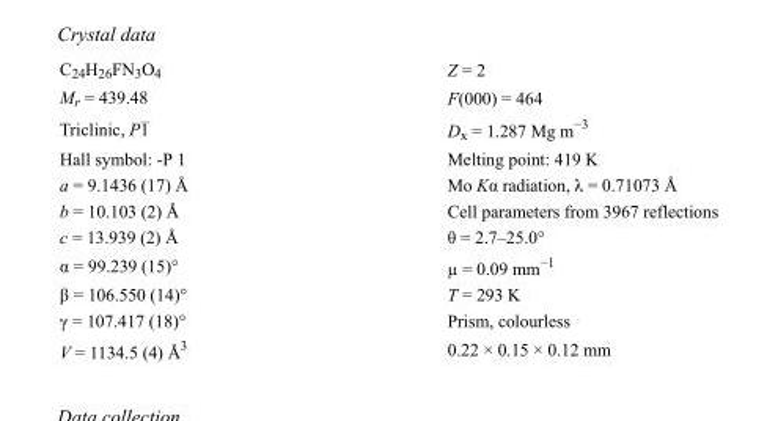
<table><tbody><tr><td>C<sub>24</sub>H<sub>26</sub>FN<sub>3</sub>O<sub>4</sub></td><td>Z = 2</td></tr><tr><td>M<sub>r</sub> = 439.48</td><td>F(000) = 464</td></tr><tr><td>Triclinic, P1</td><td>D<sub>x</sub> = 1.287 Mg m<sup>−3</sup></td></tr><tr><td>Hall symbol: -P 1</td><td>Melting point: 419 K</td></tr><tr><td>a = 9.1436 (17) Å</td><td>Mo Kα radiation, λ = 0.71073 Å</td></tr><tr><td>b = 10.103 (2) Å</td><td>Cell parameters from 3967 reflections</td></tr><tr><td>c = 13.939 (2) Å</td><td>θ = 2.7–25.0°</td></tr><tr><td>α = 99.239 (15)°</td><td>µ = 0.09 mm<sup>−1</sup></td></tr><tr><td>β = 106.550 (14)°</td><td>T = 293 K</td></tr><tr><td>γ = 107.417 (18)°</td><td>Prism, colourless</td></tr><tr><td>V = 1134.5 (4) Å<sup>3</sup></td><td>0.22 × 0.15 × 0.12 mm</td></tr></tbody></table>